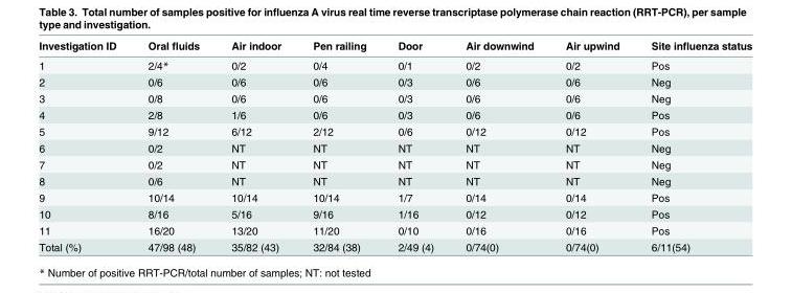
<table><thead><tr><td>Investigation ID</td><td>Oral fluids</td><td>Air indoor</td><td>Pen railing</td><td>Door</td><td>Air downwind</td><td>Air upwind</td><td>Site influenza status</td></tr></thead><tbody><tr><td>1</td><td>2/4*</td><td>0/2</td><td>0/4</td><td>0/1</td><td>0/2</td><td>0/2</td><td>Pos</td></tr><tr><td>2</td><td>0/6</td><td>0/6</td><td>0/6</td><td>0/3</td><td>0/6</td><td>0/6</td><td>Neg</td></tr><tr><td>3</td><td>0/8</td><td>0/6</td><td>0/6</td><td>0/3</td><td>0/6</td><td>0/6</td><td>Neg</td></tr><tr><td>4</td><td>2/8</td><td>1/6</td><td>0/6</td><td>0/3</td><td>0/6</td><td>0/6</td><td>Pos</td></tr><tr><td>5</td><td>9/12</td><td>6/12</td><td>2/12</td><td>0/6</td><td>0/12</td><td>0/12</td><td>Pos</td></tr><tr><td>6</td><td>0/2</td><td>NT</td><td>NT</td><td>NT</td><td>NT</td><td>NT</td><td>Neg</td></tr><tr><td>7</td><td>0/2</td><td>NT</td><td>NT</td><td>NT</td><td>NT</td><td>NT</td><td>Neg</td></tr><tr><td>8</td><td>0/6</td><td>NT</td><td>NT</td><td>NT</td><td>NT</td><td>NT</td><td>Neg</td></tr><tr><td>9</td><td>10/14</td><td>10/14</td><td>10/14</td><td>1/7</td><td>0/14</td><td>0/14</td><td>Pos</td></tr><tr><td>10</td><td>8/16</td><td>5/16</td><td>9/16</td><td>1/16</td><td>0/12</td><td>0/12</td><td>Pos</td></tr><tr><td>11</td><td>16/20</td><td>13/20</td><td>11/20</td><td>0/10</td><td>0/16</td><td>0/16</td><td>Pos</td></tr><tr><td>Total (%)</td><td>47/98 (48)</td><td>35/82 (43)</td><td>32/84 (38)</td><td>2/49 (4)</td><td>0/74(0)</td><td>0/74(0)</td><td>6/11(54)</td></tr></tbody></table>